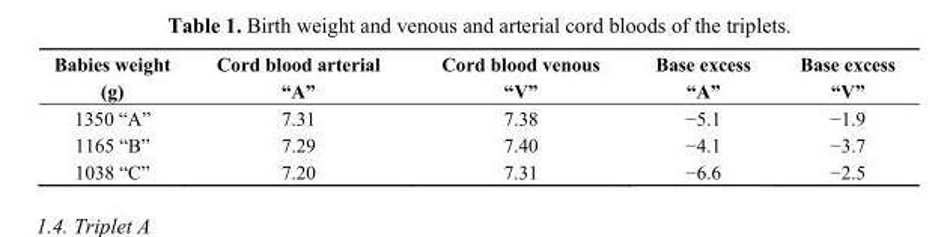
<table><thead><tr><td>Babies weight (g)</td><td>Cord blood arterial “A”</td><td>Cord blood venous “V”</td><td>Base excess “A”</td><td>Base excess “V”</td></tr></thead><tbody><tr><td>1350 “A”</td><td>7.31</td><td>7.38</td><td>−5.1</td><td>−1.9</td></tr><tr><td>1165 “B”</td><td>7.29</td><td>7.40</td><td>−4.1</td><td>−3.7</td></tr><tr><td>1038 “C”</td><td>7.20</td><td>7.31</td><td>−6.6</td><td>−2.5</td></tr></tbody></table>